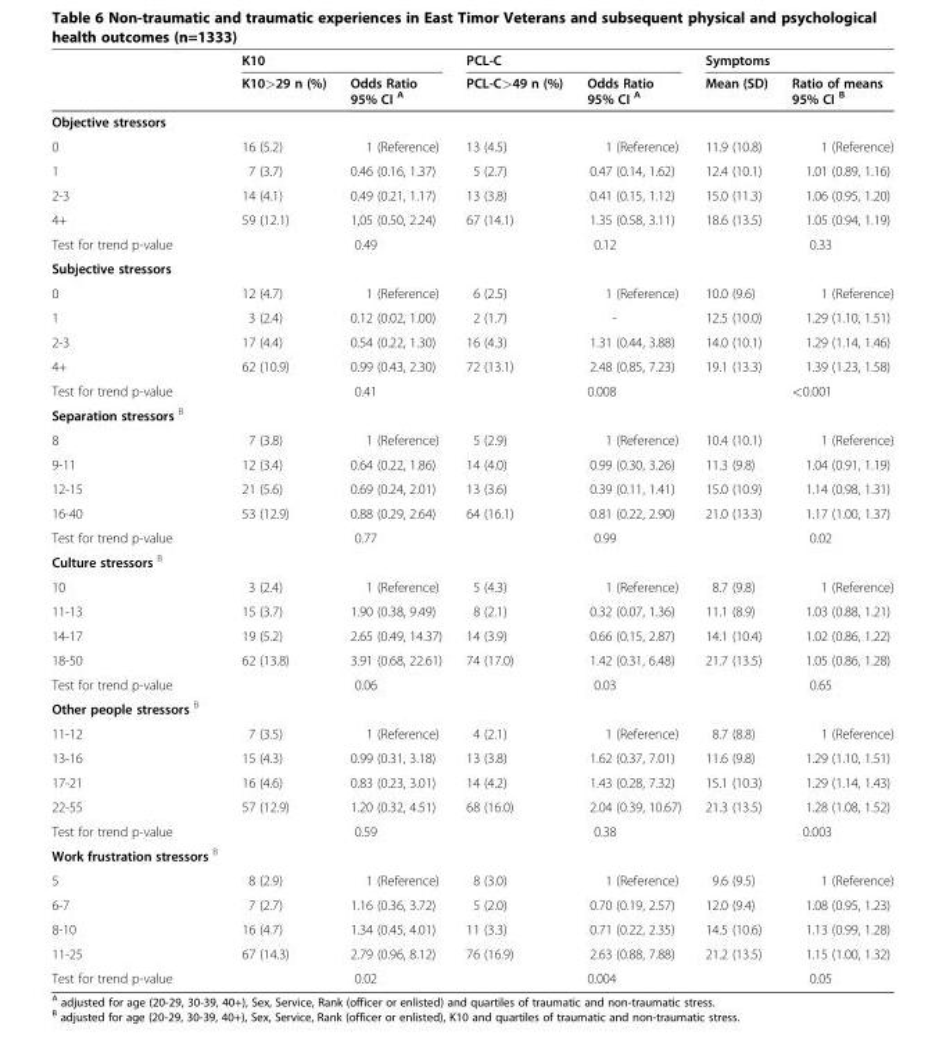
<table><thead><tr><td rowspan="2"></td><td colspan="2">K10</td><td colspan="2">PCL-C</td><td colspan="2">Symptoms</td></tr><tr><td>K10&gt;29 n (%)</td><td>Odds Ratio 95% CI <sup>A</sup></td><td>PCL-C&gt;49 n (%)</td><td>Odds Ratio 95% CI <sup>A</sup></td><td>Mean (SD)</td><td>Ratio of means 95% CI <sup>B</sup></td></tr></thead><tbody><tr><td colspan="7">Objective stressors</td></tr><tr><td>0</td><td>16 (5.2)</td><td>1 (Reference)</td><td>13 (4.5)</td><td>1 (Reference)</td><td>11.9 (10.8)</td><td>1 (Reference)</td></tr><tr><td>1</td><td>7 (3.7)</td><td>0.46 (0.16, 1.37)</td><td>5 (2.7)</td><td>0.47 (0.14, 1.62)</td><td>12.4 (10.1)</td><td>1.01 (0.89, 1.16)</td></tr><tr><td>2-3</td><td>14 (4.1)</td><td>0.49 (0.21, 1.17)</td><td>13 (3.8)</td><td>0.41 (0.15, 1.12)</td><td>15.0 (11.3)</td><td>1.06 (0.95, 1.20)</td></tr><tr><td>4+</td><td>59 (12.1)</td><td>1,05 (0.50, 2.24)</td><td>67 (14.1)</td><td>1.35 (0.58, 3.11)</td><td>18.6 (13.5)</td><td>1.05 (0.94, 1.19)</td></tr><tr><td>Test for trend p-value</td><td></td><td>0.49</td><td></td><td>0.12</td><td></td><td>0.33</td></tr><tr><td colspan="7">Subjective stressors</td></tr><tr><td>0</td><td>12 (4.7)</td><td>1 (Reference)</td><td>6 (2.5)</td><td>1 (Reference)</td><td>10.0 (9.6)</td><td>1 (Reference)</td></tr><tr><td>1</td><td>3 (2.4)</td><td>0.12 (0.02, 1.00)</td><td>2 (1.7)</td><td>-</td><td>12.5 (10.0)</td><td>1.29 (1.10, 1.51)</td></tr><tr><td>2-3</td><td>17 (4.4)</td><td>0.54 (0.22, 1.30)</td><td>16 (4.3)</td><td>1.31 (0.44, 3.88)</td><td>14.0 (10.1)</td><td>1.29 (1.14, 1.46)</td></tr><tr><td>4+</td><td>62 (10.9)</td><td>0.99 (0.43, 2.30)</td><td>72 (13.1)</td><td>2.48 (0.85, 7.23)</td><td>19.1 (13.3)</td><td>1.39 (1.23, 1.58)</td></tr><tr><td>Test for trend p-value</td><td></td><td>0.41</td><td></td><td>0.008</td><td></td><td>&lt;0.001</td></tr><tr><td colspan="7">Separation stressors <sup>B</sup></td></tr><tr><td>8</td><td>7 (3.8)</td><td>1 (Reference)</td><td>5 (2.9)</td><td>1 (Reference)</td><td>10.4 (10.1)</td><td>1 (Reference)</td></tr><tr><td>9-11</td><td>12 (3.4)</td><td>0.64 (0.22, 1.86)</td><td>14 (4.0)</td><td>0.99 (0.30, 3.26)</td><td>11.3 (9.8)</td><td>1.04 (0.91, 1.19)</td></tr><tr><td>12-15</td><td>21 (5.6)</td><td>0.69 (0.24, 2.01)</td><td>13 (3.6)</td><td>0.39 (0.11, 1.41)</td><td>15.0 (10.9)</td><td>1.14 (0.98, 1.31)</td></tr><tr><td>16-40</td><td>53 (12.9)</td><td>0.88 (0.29, 2.64)</td><td>64 (16.1)</td><td>0.81 (0.22, 2.90)</td><td>21.0 (13.3)</td><td>1.17 (1.00, 1.37)</td></tr><tr><td>Test for trend p-value</td><td></td><td>0.77</td><td></td><td>0.99</td><td></td><td>0.02</td></tr><tr><td colspan="7">Culture stressors <sup>B</sup></td></tr><tr><td>10</td><td>3 (2.4)</td><td>1 (Reference)</td><td>5 (4.3)</td><td>1 (Reference)</td><td>8.7 (9.8)</td><td>1 (Reference)</td></tr><tr><td>11-13</td><td>15 (3.7)</td><td>1.90 (0.38, 9.49)</td><td>8 (2.1)</td><td>0.32 (0.07, 1.36)</td><td>11.1 (8.9)</td><td>1.03 (0.88, 1.21)</td></tr><tr><td>14-17</td><td>19 (5.2)</td><td>2.65 (0.49, 14.37)</td><td>14 (3.9)</td><td>0.66 (0.15, 2.87)</td><td>14.1 (10.4)</td><td>1.02 (0.86, 1.22)</td></tr><tr><td>18-50</td><td>62 (13.8)</td><td>3.91 (0.68, 22.61)</td><td>74 (17.0)</td><td>1.42 (0.31, 6.48)</td><td>21.7 (13.5)</td><td>1.05 (0.86, 1.28)</td></tr><tr><td>Test for trend p-value</td><td></td><td>0.06</td><td></td><td>0.03</td><td></td><td>0.65</td></tr><tr><td colspan="7">Other people stressors <sup>B</sup></td></tr><tr><td>11-12</td><td>7 (3.5)</td><td>1 (Reference)</td><td>4 (2.1)</td><td>1 (Reference)</td><td>8.7 (8.8)</td><td>1 (Reference)</td></tr><tr><td>13-16</td><td>15 (4.3)</td><td>0.99 (0.31, 3.18)</td><td>13 (3.8)</td><td>1.62 (0.37, 7.01)</td><td>11.6 (9.8)</td><td>1.29 (1.10, 1.51)</td></tr><tr><td>17-21</td><td>16 (4.6)</td><td>0.83 (0.23, 3.01)</td><td>14 (4.2)</td><td>1.43 (0.28, 7.32)</td><td>15.1 (10.3)</td><td>1.29 (1.14, 1.43)</td></tr><tr><td>22-55</td><td>57 (12.9)</td><td>1.20 (0.32, 4.51)</td><td>68 (16.0)</td><td>2.04 (0.39, 10.67)</td><td>21.3 (13.5)</td><td>1.28 (1.08, 1.52)</td></tr><tr><td>Test for trend p-value</td><td></td><td>0.59</td><td></td><td>0.38</td><td></td><td>0.003</td></tr><tr><td colspan="7">Work frustration stressors <sup>B</sup></td></tr><tr><td>5</td><td>8 (2.9)</td><td>1 (Reference)</td><td>8 (3.0)</td><td>1 (Reference)</td><td>9.6 (9.5)</td><td>1 (Reference)</td></tr><tr><td>6-7</td><td>7 (2.7)</td><td>1.16 (0.36, 3.72)</td><td>5 (2.0)</td><td>0.70 (0.19, 2.57)</td><td>12.0 (9.4)</td><td>1.08 (0.95, 1.23)</td></tr><tr><td>8-10</td><td>16 (4.7)</td><td>1.34 (0.45, 4.01)</td><td>11 (3.3)</td><td>0.71 (0.22, 2.35)</td><td>14.5 (10.6)</td><td>1.13 (0.99, 1.28)</td></tr><tr><td>11-25</td><td>67 (14.3)</td><td>2.79 (0.96, 8.12)</td><td>76 (16.9)</td><td>2.63 (0.88, 7.88)</td><td>21.2 (13.5)</td><td>1.15 (1.00, 1.32)</td></tr><tr><td>Test for trend p-value</td><td></td><td>0.02</td><td></td><td>0.004</td><td></td><td>0.05</td></tr></tbody></table>